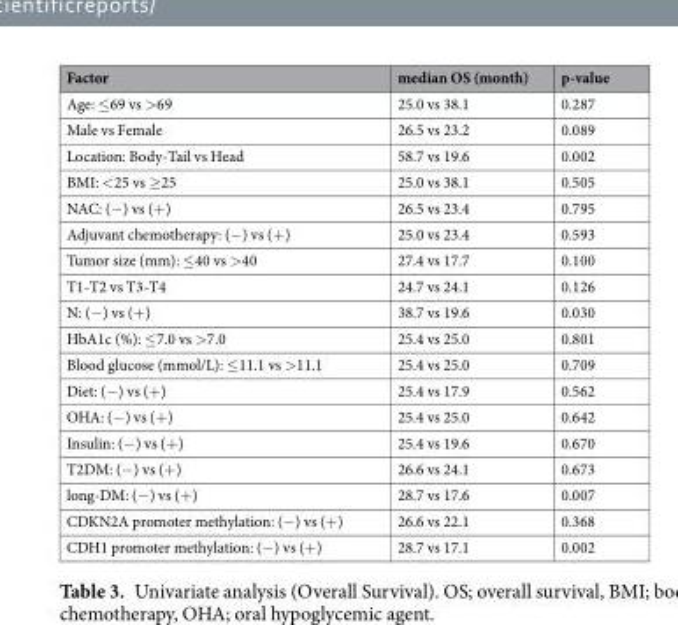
<table><thead><tr><td>Factor</td><td>median OS (month)</td><td>p-value</td></tr></thead><tbody><tr><td>Age: ≤69 vs &gt;69</td><td>25.0 vs 38.1</td><td>0.287</td></tr><tr><td>Male vs Female</td><td>26.5 vs 23.2</td><td>0.089</td></tr><tr><td>Location: Body-Tail vs Head</td><td>58.7 vs 19.6</td><td>0.002</td></tr><tr><td>BMI: &lt;25 vs ≥25</td><td>25.0 vs 38.1</td><td>0.505</td></tr><tr><td>NAC: (−) vs (+)</td><td>26.5 vs 23.4</td><td>0.795</td></tr><tr><td>Adjuvant chemotherapy: (−) vs (+)</td><td>25.0 vs 23.4</td><td>0.593</td></tr><tr><td>Tumor size (mm): ≤40 vs &gt;40</td><td>27.4 vs 17.7</td><td>0.100</td></tr><tr><td>T1-T2 vs T3-T4</td><td>24.7 vs 24.1</td><td>0.126</td></tr><tr><td>N: (−) vs (+)</td><td>38.7 vs 19.6</td><td>0.030</td></tr><tr><td>HbA1c (%): ≤7.0 vs &gt;7.0</td><td>25.4 vs 25.0</td><td>0.801</td></tr><tr><td>Blood glucose (mmol/L): ≤11.1 vs &gt;11.1</td><td>25.4 vs 25.0</td><td>0.709</td></tr><tr><td>Diet: (−) vs (+)</td><td>25.4 vs 17.9</td><td>0.562</td></tr><tr><td>OHA: (−) vs (+)</td><td>25.4 vs 25.0</td><td>0.642</td></tr><tr><td>Insulin: (−) vs (+)</td><td>25.4 vs 19.6</td><td>0.670</td></tr><tr><td>T2DM: (−) vs (+)</td><td>26.6 vs 24.1</td><td>0.673</td></tr><tr><td>long-DM: (−) vs (+)</td><td>28.7 vs 17.6</td><td>0.007</td></tr><tr><td>CDKN2A promoter methylation: (−) vs (+)</td><td>26.6 vs 22.1</td><td>0.368</td></tr><tr><td>CDH1 promoter methylation: (−) vs (+)</td><td>28.7 vs 17.1</td><td>0.002</td></tr></tbody></table>